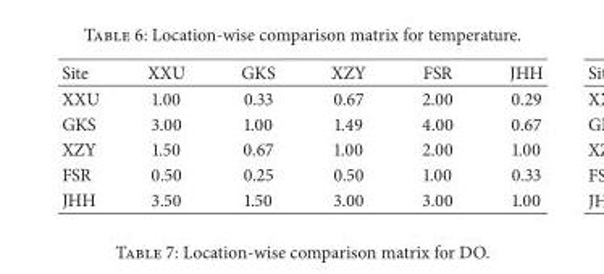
<table><thead><tr><td>Site</td><td>XXU</td><td>GKS</td><td>XZY</td><td>FSR</td><td>JHH</td></tr></thead><tbody><tr><td>XXU</td><td>1.00</td><td>0.33</td><td>0.67</td><td>2.00</td><td>0.29</td></tr><tr><td>GKS</td><td>3.00</td><td>1.00</td><td>1.49</td><td>4.00</td><td>0.67</td></tr><tr><td>XZY</td><td>1.50</td><td>0.67</td><td>1.00</td><td>2.00</td><td>1.00</td></tr><tr><td>FSR</td><td>0.50</td><td>0.25</td><td>0.50</td><td>1.00</td><td>0.33</td></tr><tr><td>JHH</td><td>3.50</td><td>1.50</td><td>3.00</td><td>3.00</td><td>1.00</td></tr></tbody></table>